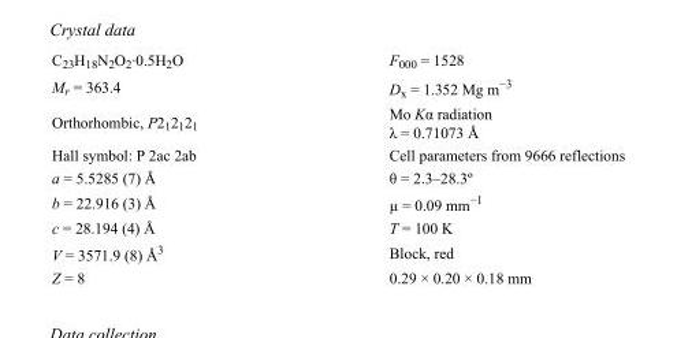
<table><tbody><tr><td>C<sub>23</sub>H<sub>18</sub>N<sub>2</sub>O<sub>2</sub>·0.5H<sub>2</sub>O</td><td>F000 = 1528</td></tr><tr><td>M<sub>r</sub> = 363.4</td><td>D<sub>x</sub> = 1.352 Mg m<sup>−3</sup></td></tr><tr><td>Orthorhombic, P2<sub>1</sub>2<sub>1</sub>2<sub>1</sub></td><td>Mo Kα radiation λ = 0.71073 Å</td></tr><tr><td>Hall symbol: P 2ac 2ab</td><td>Cell parameters from 9666 reflections</td></tr><tr><td>a = 5.5285 (7) Å</td><td>θ = 2.3–28.3º</td></tr><tr><td>b = 22.916 (3) Å</td><td>µ = 0.09 mm<sup>−1</sup></td></tr><tr><td>c = 28.194 (4) Å</td><td>T = 100 K</td></tr><tr><td>V = 3571.9 (8) Å<sup>3</sup></td><td>Block, red</td></tr><tr><td>Z = 8</td><td>0.29 × 0.20 × 0.18 mm</td></tr></tbody></table>